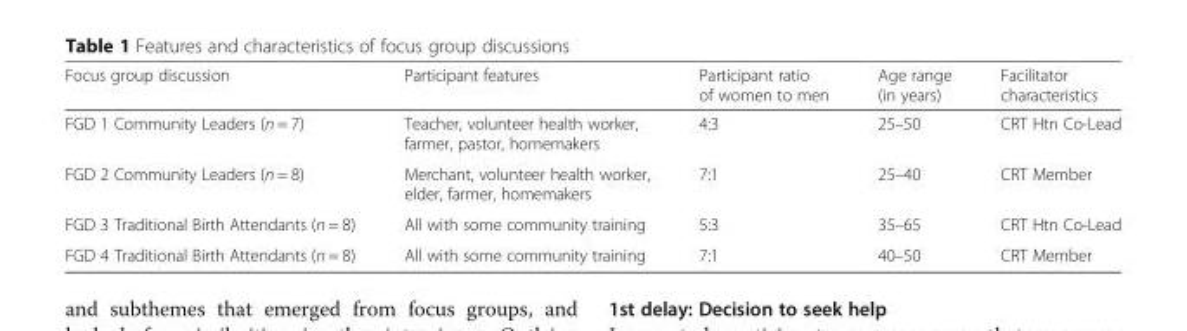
<table><thead><tr><td>Focus group discussion</td><td>Participant features</td><td>Participant ratio of women to men</td><td>Age range (in years)</td><td>Facilitator characteristics</td></tr></thead><tbody><tr><td>FGD 1 Community Leaders (n = 7)</td><td>Teacher, volunteer health worker, farmer, pastor, homemakers</td><td>4:3</td><td>25–50</td><td>CRT Htn Co-Lead</td></tr><tr><td>FGD 2 Community Leaders (n = 8)</td><td>Merchant, volunteer health worker, elder, farmer, homemakers</td><td>7:1</td><td>25–40</td><td>CRT Member</td></tr><tr><td>FGD 3 Traditional Birth Attendants (n = 8)</td><td>All with some community training</td><td>5:3</td><td>35–65</td><td>CRT Htn Co-Lead</td></tr><tr><td>FGD 4 Traditional Birth Attendants (n = 8)</td><td>All with some community training</td><td>7:1</td><td>40–50</td><td>CRT Member</td></tr></tbody></table>